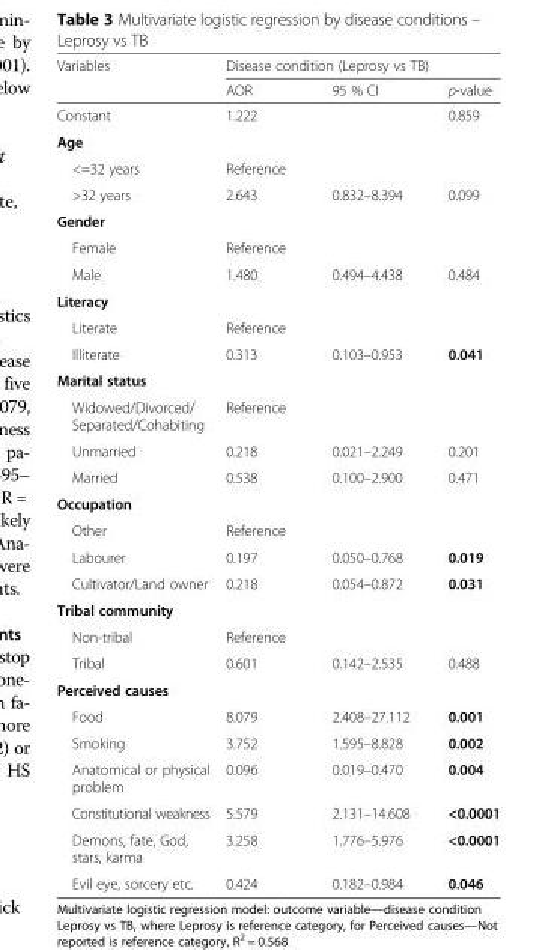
<table><thead><tr><td rowspan="2">Variables</td><td colspan="3">Disease condition (Leprosy vs TB)</td></tr><tr><td>AOR</td><td>95 % CI</td><td>p-value</td></tr></thead><tbody><tr><td>Constant</td><td>1.222</td><td></td><td>0.859</td></tr><tr><td colspan="4">Age</td></tr><tr><td>&lt;=32 years</td><td>Reference</td><td></td><td></td></tr><tr><td>&gt;32 years</td><td>2.643</td><td>0.832–8.394</td><td>0.099</td></tr><tr><td colspan="4">Gender</td></tr><tr><td>Female</td><td>Reference</td><td></td><td></td></tr><tr><td>Male</td><td>1.480</td><td>0.494–4.438</td><td>0.484</td></tr><tr><td colspan="4">Literacy</td></tr><tr><td>Literate</td><td>Reference</td><td></td><td></td></tr><tr><td>Illiterate</td><td>0.313</td><td>0.103–0.953</td><td>0.041</td></tr><tr><td colspan="4">Marital status</td></tr><tr><td>Widowed/Divorced/ Separated/Cohabiting</td><td>Reference</td><td></td><td></td></tr><tr><td>Unmarried</td><td>0.218</td><td>0.021–2.249</td><td>0.201</td></tr><tr><td>Married</td><td>0.538</td><td>0.100–2.900</td><td>0.471</td></tr><tr><td colspan="4">Occupation</td></tr><tr><td>Other</td><td>Reference</td><td></td><td></td></tr><tr><td>Labourer</td><td>0.197</td><td>0.050–0.768</td><td>0.019</td></tr><tr><td>Cultivator/Land owner</td><td>0.218</td><td>0.054–0.872</td><td>0.031</td></tr><tr><td colspan="4">Tribal community</td></tr><tr><td>Non-tribal</td><td>Reference</td><td></td><td></td></tr><tr><td>Tribal</td><td>0.601</td><td>0.142–2.535</td><td>0.488</td></tr><tr><td colspan="4">Perceived causes</td></tr><tr><td>Food</td><td>8.079</td><td>2.408–27.112</td><td>0.001</td></tr><tr><td>Smoking</td><td>3.752</td><td>1.595–8.828</td><td>0.002</td></tr><tr><td>Anatomical or physical problem</td><td>0.096</td><td>0.019–0.470</td><td>0.004</td></tr><tr><td>Constitutional weakness</td><td>5.579</td><td>2.131–14.608</td><td>&lt;0.0001</td></tr><tr><td>Demons, fate, God, stars, karma</td><td>3.258</td><td>1.776–5.976</td><td>&lt;0.0001</td></tr><tr><td>Evil eye, sorcery etc.</td><td>0.424</td><td>0.182–0.984</td><td>0.046</td></tr></tbody></table>